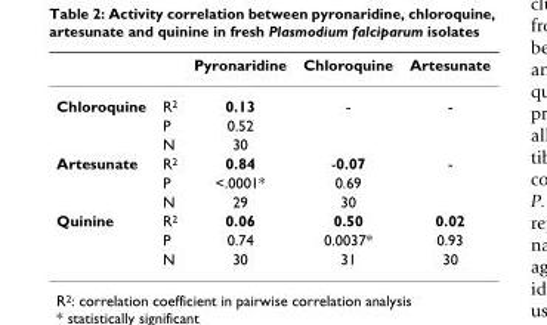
<table><thead><tr><td></td><td></td><td>Pyronaridine</td><td>Chloroquine</td><td>Artesunate</td></tr></thead><tbody><tr><td rowspan="3">Chloroquine</td><td>R<sup>2</sup></td><td>0.13</td><td>-</td><td>-</td></tr><tr><td>P</td><td>0.52</td><td></td><td></td></tr><tr><td>N</td><td>30</td><td></td><td></td></tr><tr><td rowspan="3">Artesunate</td><td>R<sup>2</sup></td><td>0.84</td><td>-0.07</td><td>-</td></tr><tr><td>P</td><td>&lt;.0001*</td><td>0.69</td><td></td></tr><tr><td>N</td><td>29</td><td>30</td><td></td></tr><tr><td rowspan="3">Quinine</td><td>R<sup>2</sup></td><td>0.06</td><td>0.50</td><td>0.02</td></tr><tr><td>P</td><td>0.74</td><td>0.0037*</td><td>0.93</td></tr><tr><td>N</td><td>30</td><td>31</td><td>30</td></tr></tbody></table>